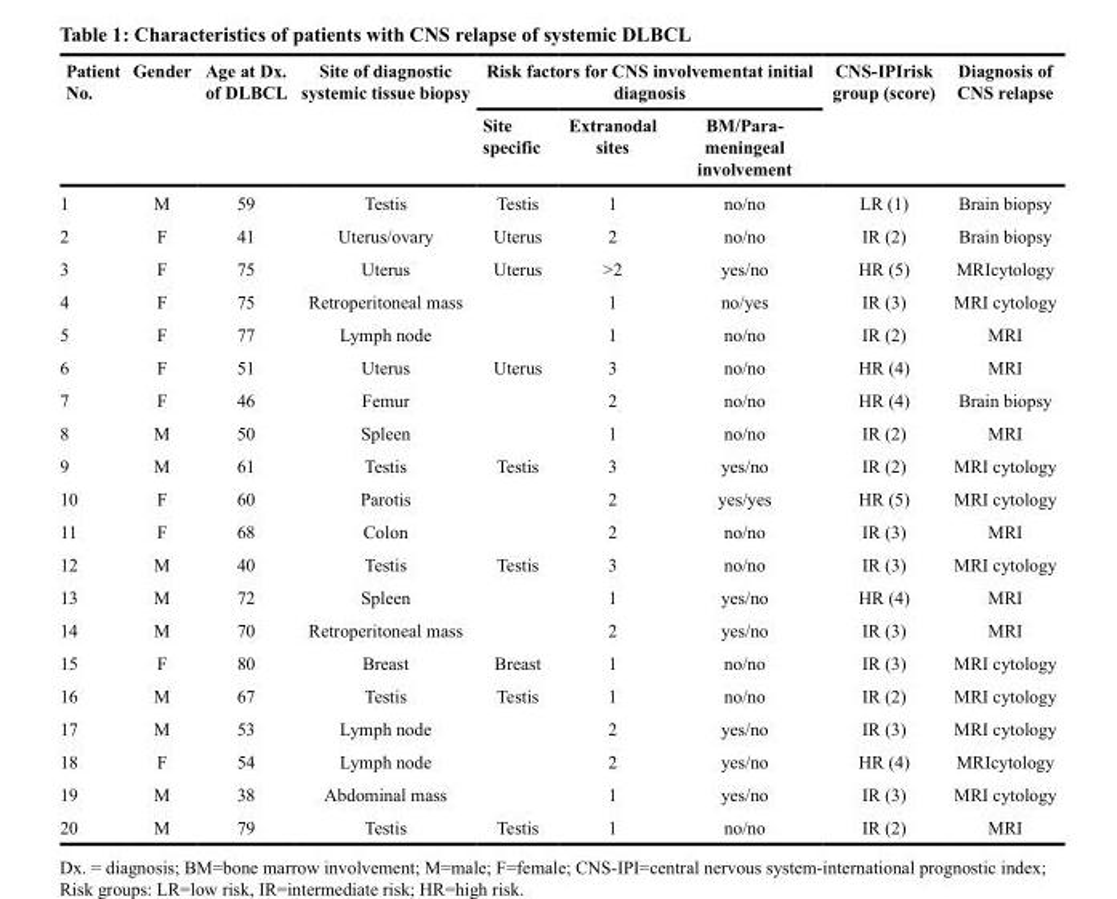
<table><thead><tr><td rowspan="2">Patient No.</td><td rowspan="2">Gender</td><td rowspan="2">Age at Dx. of DLBCL</td><td rowspan="2">Site of diagnostic systemic tissue biopsy</td><td colspan="3">Risk factors for CNS involvementat initial diagnosis</td><td rowspan="2">CNS-IPIrisk group (score)</td><td rowspan="2">Diagnosis of CNS relapse</td></tr><tr><td>Site specific</td><td>Extranodal sites</td><td>BM/Para- meningeal involvement</td></tr></thead><tbody><tr><td>1</td><td>M</td><td>59</td><td>Testis</td><td>Testis</td><td>1</td><td>no/no</td><td>LR (1)</td><td>Brain biopsy</td></tr><tr><td>2</td><td>F</td><td>41</td><td>Uterus/ovary</td><td>Uterus</td><td>2</td><td>no/no</td><td>IR (2)</td><td>Brain biopsy</td></tr><tr><td>3</td><td>F</td><td>75</td><td>Uterus</td><td>Uterus</td><td>&gt;2</td><td>yes/no</td><td>HR (5)</td><td>MRIcytology</td></tr><tr><td>4</td><td>F</td><td>75</td><td>Retroperitoneal mass</td><td></td><td>1</td><td>no/yes</td><td>IR (3)</td><td>MRI cytology</td></tr><tr><td>5</td><td>F</td><td>77</td><td>Lymph node</td><td></td><td>1</td><td>no/no</td><td>IR (2)</td><td>MRI</td></tr><tr><td>6</td><td>F</td><td>51</td><td>Uterus</td><td>Uterus</td><td>3</td><td>no/no</td><td>HR (4)</td><td>MRI</td></tr><tr><td>7</td><td>F</td><td>46</td><td>Femur</td><td></td><td>2</td><td>no/no</td><td>HR (4)</td><td>Brain biopsy</td></tr><tr><td>8</td><td>M</td><td>50</td><td>Spleen</td><td></td><td>1</td><td>no/no</td><td>IR (2)</td><td>MRI</td></tr><tr><td>9</td><td>M</td><td>61</td><td>Testis</td><td>Testis</td><td>3</td><td>yes/no</td><td>IR (2)</td><td>MRI cytology</td></tr><tr><td>10</td><td>F</td><td>60</td><td>Parotis</td><td></td><td>2</td><td>yes/yes</td><td>HR (5)</td><td>MRI cytology</td></tr><tr><td>11</td><td>F</td><td>68</td><td>Colon</td><td></td><td>2</td><td>no/no</td><td>IR (3)</td><td>MRI</td></tr><tr><td>12</td><td>M</td><td>40</td><td>Testis</td><td>Testis</td><td>3</td><td>no/no</td><td>IR (3)</td><td>MRI cytology</td></tr><tr><td>13</td><td>M</td><td>72</td><td>Spleen</td><td></td><td>1</td><td>yes/no</td><td>HR (4)</td><td>MRI</td></tr><tr><td>14</td><td>M</td><td>70</td><td>Retroperitoneal mass</td><td></td><td>2</td><td>yes/no</td><td>IR (3)</td><td>MRI</td></tr><tr><td>15</td><td>F</td><td>80</td><td>Breast</td><td>Breast</td><td>1</td><td>no/no</td><td>IR (3)</td><td>MRI cytology</td></tr><tr><td>16</td><td>M</td><td>67</td><td>Testis</td><td>Testis</td><td>1</td><td>no/no</td><td>IR (2)</td><td>MRI cytology</td></tr><tr><td>17</td><td>M</td><td>53</td><td>Lymph node</td><td></td><td>2</td><td>yes/no</td><td>IR (3)</td><td>MRI cytology</td></tr><tr><td>18</td><td>F</td><td>54</td><td>Lymph node</td><td></td><td>2</td><td>yes/no</td><td>HR (4)</td><td>MRIcytology</td></tr><tr><td>19</td><td>M</td><td>38</td><td>Abdominal mass</td><td></td><td>1</td><td>yes/no</td><td>IR (3)</td><td>MRI cytology</td></tr><tr><td>20</td><td>M</td><td>79</td><td>Testis</td><td>Testis</td><td>1</td><td>no/no</td><td>IR (2)</td><td>MRI</td></tr></tbody></table>